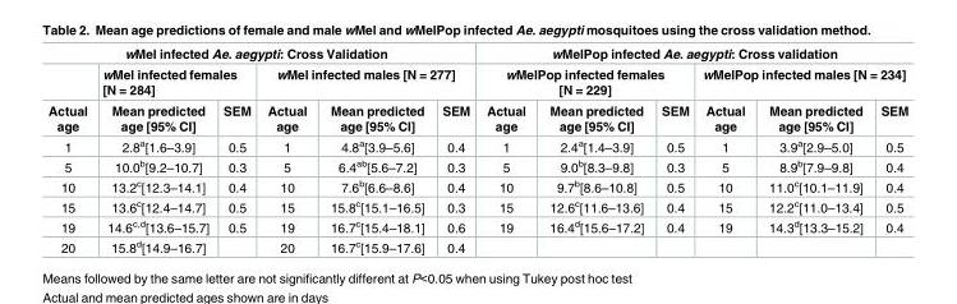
<table><thead><tr><td colspan="6">wMel infected Ae. aegypti: Cross Validation</td><td colspan="6">wMelPop infected Ae. aegypti: Cross validation</td></tr><tr><td rowspan="2">Actual age</td><td colspan="2">wMel infected females [N = 284]</td><td colspan="3">wMel infected males [N = 277]</td><td colspan="3">wMelPop infected females [N = 229]</td><td colspan="3">wMelPop infected males [N = 234]</td></tr><tr><td>Mean predicted age [95% CI]</td><td>SEM</td><td>Actual age</td><td>Mean predicted age [95% CI]</td><td>SEM</td><td>Actual age</td><td>Mean predicted age [95% CI]</td><td>SEM</td><td>Actual age</td><td>Mean predicted age [95% CI]</td><td>SEM</td></tr></thead><tbody><tr><td>1</td><td>2.8<sup>a</sup>[1.6–3.9]</td><td>0.5</td><td>1</td><td>4.8<sup>a</sup>[3.9–5.6]</td><td>0.4</td><td>1</td><td>2.4<sup>a</sup>[1.4–3.9]</td><td>0.5</td><td>1</td><td>3.9<sup>a</sup>[2.9–5.0]</td><td>0.5</td></tr><tr><td>5</td><td>10.0<sup>b</sup>[9.2–10.7]</td><td>0.3</td><td>5</td><td>6.4<sup>ab</sup>[5.6–7.2]</td><td>0.3</td><td>5</td><td>9.0<sup>b</sup>[8.3–9.8]</td><td>0.3</td><td>5</td><td>8.9<sup>b</sup>[7.9–9.8]</td><td>0.4</td></tr><tr><td>10</td><td>13.2<sup>c</sup>[12.3–14.1]</td><td>0.4</td><td>10</td><td>7.6<sup>b</sup>[6.6–8.6]</td><td>0.4</td><td>10</td><td>9.7<sup>b</sup>[8.6–10.8]</td><td>0.5</td><td>10</td><td>11.0<sup>c</sup>[10.1–11.9]</td><td>0.4</td></tr><tr><td>15</td><td>13.6<sup>c</sup>[12.4–14.7]</td><td>0.5</td><td>15</td><td>15.8<sup>c</sup>[15.1–16.5]</td><td>0.3</td><td>15</td><td>12.6<sup>c</sup>[11.6–13.6]</td><td>0.4</td><td>15</td><td>12.2<sup>c</sup>[11.0–13.4]</td><td>0.5</td></tr><tr><td>19</td><td>14.6<sup>c,d</sup>[13.6–15.7]</td><td>0.5</td><td>19</td><td>16.7<sup>c</sup>[15.4–18.1]</td><td>0.6</td><td>19</td><td>16.4<sup>d</sup>[15.6–17.2]</td><td>0.4</td><td>19</td><td>14.3<sup>d</sup>[13.3–15.2]</td><td>0.4</td></tr><tr><td>20</td><td>15.8<sup>d</sup>[14.9–16.7]</td><td></td><td>20</td><td>16.7<sup>c</sup>[15.9–17.6]</td><td>0.4</td><td></td><td></td><td></td><td></td><td></td><td></td></tr></tbody></table>